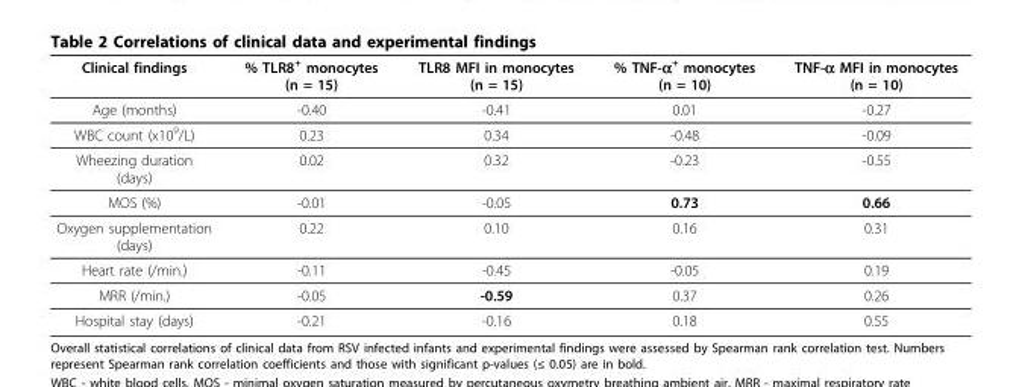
<table><thead><tr><td>Clinical findings</td><td>% TLR8<sup>+</sup> monocytes (n = 15)</td><td>TLR8 MFI in monocytes (n = 15)</td><td>% TNF-α<sup>+</sup> monocytes (n = 10)</td><td>TNF-α MFI in monocytes (n = 10)</td></tr></thead><tbody><tr><td>Age (months)</td><td>-0.40</td><td>-0.41</td><td>0.01</td><td>-0.27</td></tr><tr><td>WBC count (x10<sup>9</sup>/L)</td><td>0.23</td><td>0.34</td><td>-0.48</td><td>-0.09</td></tr><tr><td>Wheezing duration (days)</td><td>0.02</td><td>0.32</td><td>-0.23</td><td>-0.55</td></tr><tr><td>MOS (%)</td><td>-0.01</td><td>-0.05</td><td>0.73</td><td>0.66</td></tr><tr><td>Oxygen supplementation (days)</td><td>0.22</td><td>0.10</td><td>0.16</td><td>0.31</td></tr><tr><td>Heart rate (/min.)</td><td>-0.11</td><td>-0.45</td><td>-0.05</td><td>0.19</td></tr><tr><td>MRR (/min.)</td><td>-0.05</td><td>-0.59</td><td>0.37</td><td>0.26</td></tr><tr><td>Hospital stay (days)</td><td>-0.21</td><td>-0.16</td><td>0.18</td><td>0.55</td></tr></tbody></table>